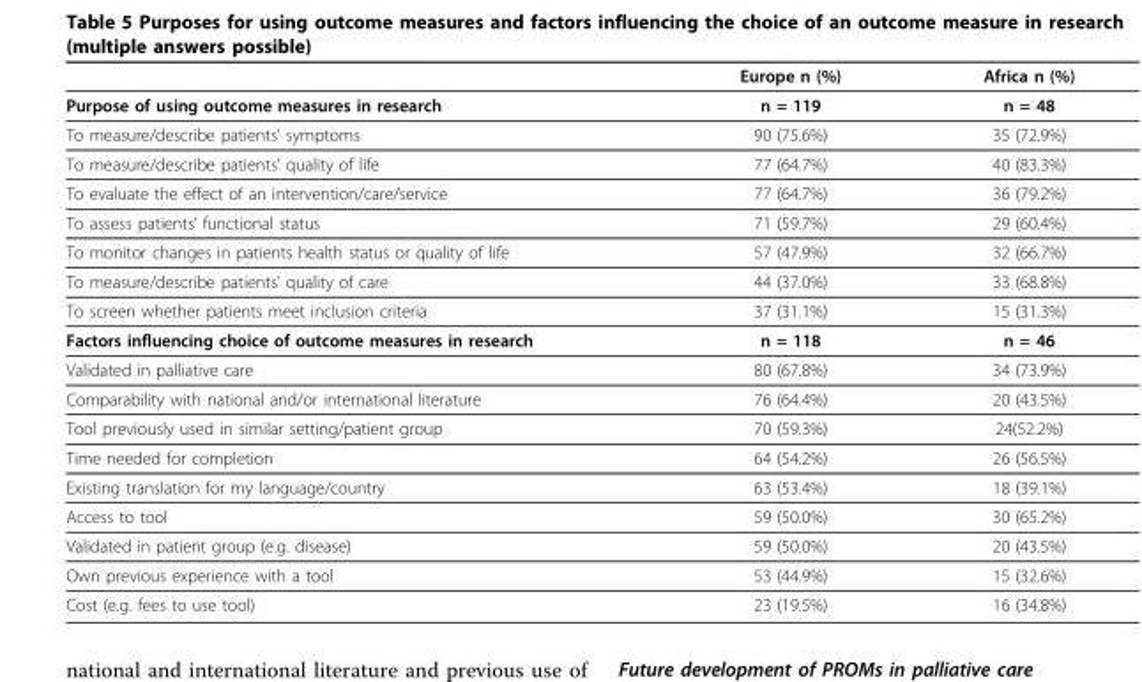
<table><thead><tr><td></td><td>Europe n (%)</td><td>Africa n (%)</td></tr></thead><tbody><tr><td>Purpose of using outcome measures in research</td><td>n = 119</td><td>n = 48</td></tr><tr><td>To measure/describe patients’ symptoms</td><td>90 (75.6%)</td><td>35 (72.9%)</td></tr><tr><td>To measure/describe patients’ quality of life</td><td>77 (64.7%)</td><td>40 (83.3%)</td></tr><tr><td>To evaluate the effect of an intervention/care/service</td><td>77 (64.7%)</td><td>36 (79.2%)</td></tr><tr><td>To assess patients’ functional status</td><td>71 (59.7%)</td><td>29 (60.4%)</td></tr><tr><td>To monitor changes in patients health status or quality of life</td><td>57 (47.9%)</td><td>32 (66.7%)</td></tr><tr><td>To measure/describe patients’ quality of care</td><td>44 (37.0%)</td><td>33 (68.8%)</td></tr><tr><td>To screen whether patients meet inclusion criteria</td><td>37 (31.1%)</td><td>15 (31.3%)</td></tr><tr><td>Factors influencing choice of outcome measures in research</td><td>n = 118</td><td>n = 46</td></tr><tr><td>Validated in palliative care</td><td>80 (67.8%)</td><td>34 (73.9%)</td></tr><tr><td>Comparability with national and/or international literature</td><td>76 (64.4%)</td><td>20 (43.5%)</td></tr><tr><td>Tool previously used in similar setting/patient group</td><td>70 (59.3%)</td><td>24(52.2%)</td></tr><tr><td>Time needed for completion</td><td>64 (54.2%)</td><td>26 (56.5%)</td></tr><tr><td>Existing translation for my language/country</td><td>63 (53.4%)</td><td>18 (39.1%)</td></tr><tr><td>Access to tool</td><td>59 (50.0%)</td><td>30 (65.2%)</td></tr><tr><td>Validated in patient group (e.g. disease)</td><td>59 (50.0%)</td><td>20 (43.5%)</td></tr><tr><td>Own previous experience with a tool</td><td>53 (44.9%)</td><td>15 (32.6%)</td></tr><tr><td>Cost (e.g. fees to use tool)</td><td>23 (19.5%)</td><td>16 (34.8%)</td></tr></tbody></table>